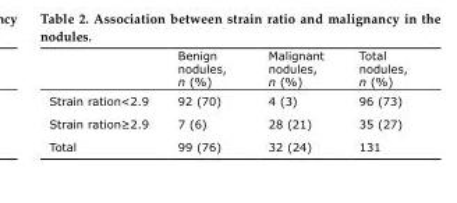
<table><thead><tr><td></td><td>Benign nodules, n (%)</td><td>Malignant nodules, n (%)</td><td>Total nodules, n (%)</td></tr></thead><tbody><tr><td>Strain ration﹤2.9</td><td>92 (70)</td><td>4 (3)</td><td>96 (73)</td></tr><tr><td>Strain ration≥2.9</td><td>7 (6)</td><td>28 (21)</td><td>35 (27)</td></tr><tr><td>Total</td><td>99 (76)</td><td>32 (24)</td><td>131</td></tr></tbody></table>